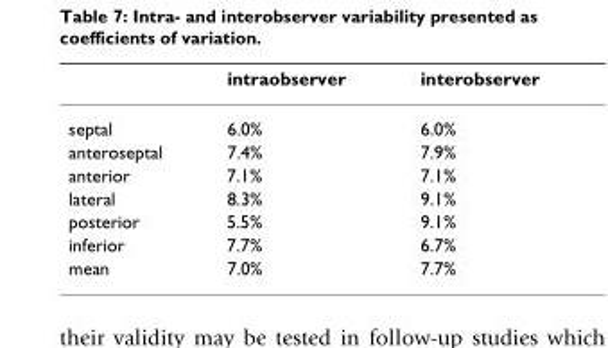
<table><thead><tr><td></td><td>intraobserver</td><td>interobserver</td></tr></thead><tbody><tr><td>septal</td><td>6.0%</td><td>6.0%</td></tr><tr><td>anteroseptal</td><td>7.4%</td><td>7.9%</td></tr><tr><td>anterior</td><td>7.1%</td><td>7.1%</td></tr><tr><td>lateral</td><td>8.3%</td><td>9.1%</td></tr><tr><td>posterior</td><td>5.5%</td><td>9.1%</td></tr><tr><td>inferior</td><td>7.7%</td><td>6.7%</td></tr><tr><td>mean</td><td>7.0%</td><td>7.7%</td></tr></tbody></table>